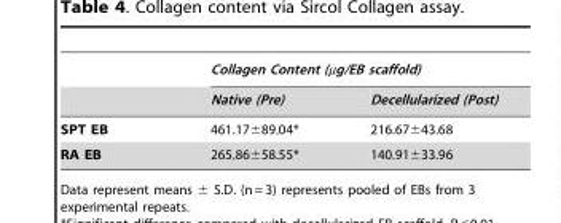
<table><thead><tr><td rowspan="2"></td><td colspan="2">Collagen Content (µg/EB scaffold)</td></tr><tr><td>Native (Pre)</td><td>Decellularized (Post)</td></tr></thead><tbody><tr><td>SPT EB</td><td>461.17±89.04*</td><td>216.67±43.68</td></tr><tr><td>RA EB</td><td>265.86±58.55*</td><td>140.91±33.96</td></tr></tbody></table>